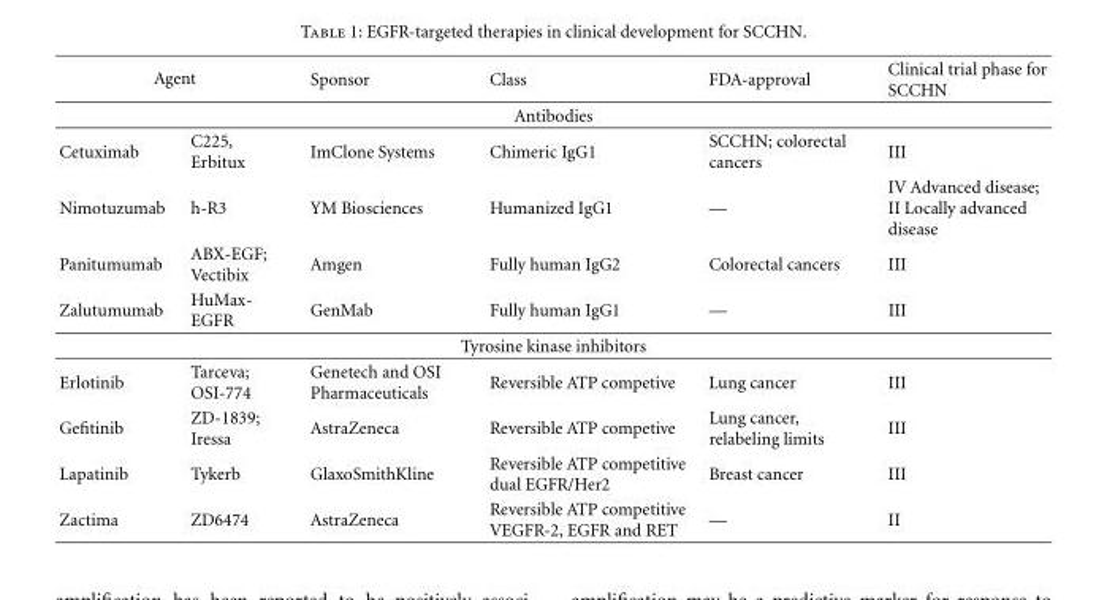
<table><thead><tr><td colspan="2">Agent</td><td>Sponsor</td><td>Class</td><td>FDA-approval</td><td>Clinical trial phase for SCCHN</td></tr><tr><td colspan="6">Antibodies</td></tr><tr><td>Cetuximab</td><td>C225, Erbitux</td><td>ImClone Systems</td><td>Chimeric IgG1</td><td>SCCHN; colorectal cancers</td><td>III</td></tr></thead><tbody><tr><td>Nimotuzumab</td><td>h-R3</td><td>YM Biosciences</td><td>Humanized IgG1</td><td>—</td><td>IV Advanced disease; II Locally advanced disease</td></tr><tr><td>Panitumumab</td><td>ABX-EGF; Vectibix</td><td>Amgen</td><td>Fully human IgG2</td><td>Colorectal cancers</td><td>III</td></tr><tr><td>Zalutumumab</td><td>HuMax- EGFR</td><td>GenMab</td><td>Fully human IgG1</td><td>—</td><td>III</td></tr><tr><td colspan="6">Tyrosine kinase inhibitors</td></tr><tr><td>Erlotinib</td><td>Tarceva; OSI-774</td><td>Genetech and OSI Pharmaceuticals</td><td>Reversible ATP competive</td><td>Lung cancer</td><td>III</td></tr><tr><td>Gefitinib</td><td>ZD-1839; Iressa</td><td>AstraZeneca</td><td>Reversible ATP competive</td><td>Lung cancer, relabeling limits</td><td>III</td></tr><tr><td>Lapatinib</td><td>Tykerb</td><td>GlaxoSmithKline</td><td>Reversible ATP competitive dual EGFR/Her2</td><td>Breast cancer</td><td>III</td></tr><tr><td>Zactima</td><td>ZD6474</td><td>AstraZeneca</td><td>Reversible ATP competitive VEGFR-2, EGFR and RET</td><td>—</td><td>II</td></tr></tbody></table>